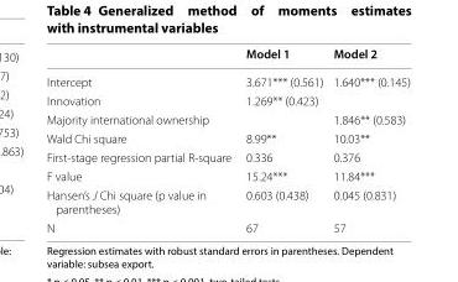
<table><thead><tr><td></td><td>Model 1</td><td>Model 2</td></tr></thead><tbody><tr><td>Intercept</td><td>3.671*** (0.561)</td><td>1.640*** (0.145)</td></tr><tr><td>Innovation</td><td>1.269** (0.423)</td><td></td></tr><tr><td>Majority international ownership</td><td></td><td>1.846** (0.583)</td></tr><tr><td>Wald Chi square</td><td>8.99**</td><td>10.03**</td></tr><tr><td>First‑stage regression partial R‑square</td><td>0.336</td><td>0.376</td></tr><tr><td>F value</td><td>15.24***</td><td>11.84***</td></tr><tr><td>Hansen’s J Chi square (p value in parentheses)</td><td>0.603 (0.438)</td><td>0.045 (0.831)</td></tr><tr><td>N</td><td>67</td><td>57</td></tr></tbody></table>